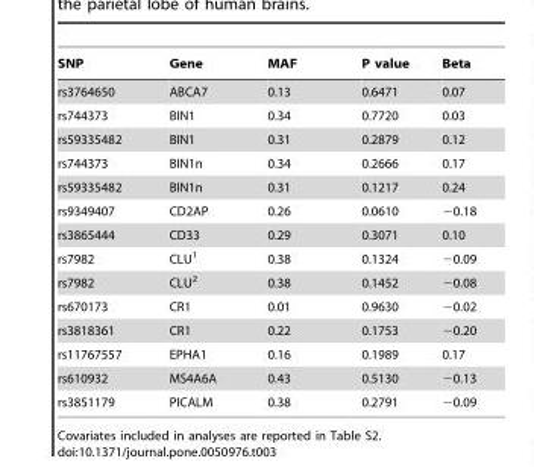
<table><thead><tr><td>SNP</td><td>Gene</td><td>MAF</td><td>P value</td><td>Beta</td></tr></thead><tbody><tr><td>rs3764650</td><td>ABCA7</td><td>0.13</td><td>0.6471</td><td>0.07</td></tr><tr><td>rs744373</td><td>BIN1</td><td>0.34</td><td>0.7720</td><td>0.03</td></tr><tr><td>rs59335482</td><td>BIN1</td><td>0.31</td><td>0.2879</td><td>0.12</td></tr><tr><td>rs744373</td><td>BIN1n</td><td>0.34</td><td>0.2666</td><td>0.17</td></tr><tr><td>rs59335482</td><td>BIN1n</td><td>0.31</td><td>0.1217</td><td>0.24</td></tr><tr><td>rs9349407</td><td>CD2AP</td><td>0.26</td><td>0.0610</td><td>−0.18</td></tr><tr><td>rs3865444</td><td>CD33</td><td>0.29</td><td>0.3071</td><td>0.10</td></tr><tr><td>rs7982</td><td>CLU<sup>1</sup></td><td>0.38</td><td>0.1324</td><td>−0.09</td></tr><tr><td>rs7982</td><td>CLU<sup>2</sup></td><td>0.38</td><td>0.1452</td><td>−0.08</td></tr><tr><td>rs670173</td><td>CR1</td><td>0.01</td><td>0.9630</td><td>−0.02</td></tr><tr><td>rs3818361</td><td>CR1</td><td>0.22</td><td>0.1753</td><td>−0.20</td></tr><tr><td>rs11767557</td><td>EPHA1</td><td>0.16</td><td>0.1989</td><td>0.17</td></tr><tr><td>rs610932</td><td>MS4A6A</td><td>0.43</td><td>0.5130</td><td>−0.13</td></tr><tr><td>rs3851179</td><td>PICALM</td><td>0.38</td><td>0.2791</td><td>−0.09</td></tr></tbody></table>